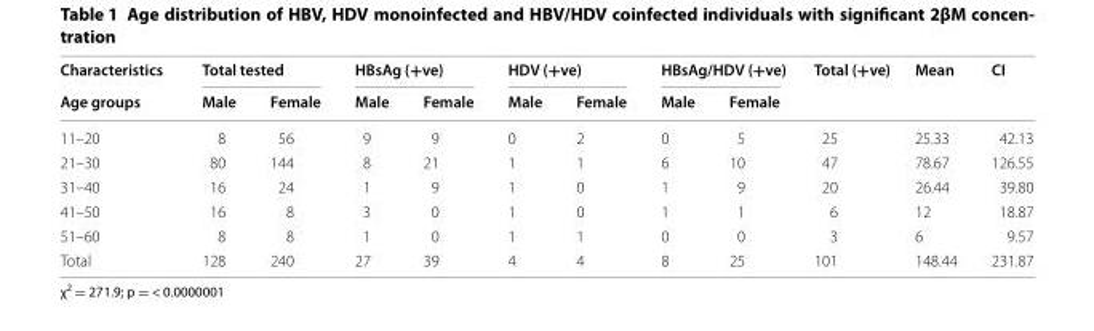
<table><thead><tr><td rowspan="2">Characteristics Age groups</td><td colspan="2">Total tested</td><td colspan="2">HBsAg (+ve)</td><td colspan="2">HDV (+ve)</td><td colspan="2">HBsAg/HDV (+ve)</td><td rowspan="2">Total (+ve)</td><td rowspan="2">Mean</td><td rowspan="2">CI</td></tr><tr><td>Male</td><td>Female</td><td>Male</td><td>Female</td><td>Male</td><td>Female</td><td>Male</td><td>Female</td></tr></thead><tbody><tr><td>11–20</td><td>8</td><td>56</td><td>9</td><td>9</td><td>0</td><td>2</td><td>0</td><td>5</td><td>25</td><td>25.33</td><td>42.13</td></tr><tr><td>21–30</td><td>80</td><td>144</td><td>8</td><td>21</td><td>1</td><td>1</td><td>6</td><td>10</td><td>47</td><td>78.67</td><td>126.55</td></tr><tr><td>31–40</td><td>16</td><td>24</td><td>1</td><td>9</td><td>1</td><td>0</td><td>1</td><td>9</td><td>20</td><td>26.44</td><td>39.80</td></tr><tr><td>41–50</td><td>16</td><td>8</td><td>3</td><td>0</td><td>1</td><td>0</td><td>1</td><td>1</td><td>6</td><td>12</td><td>18.87</td></tr><tr><td>51–60</td><td>8</td><td>8</td><td>1</td><td>0</td><td>1</td><td>1</td><td>0</td><td>0</td><td>3</td><td>6</td><td>9.57</td></tr><tr><td>Total</td><td>128</td><td>240</td><td>27</td><td>39</td><td>4</td><td>4</td><td>8</td><td>25</td><td>101</td><td>148.44</td><td>231.87</td></tr></tbody></table>